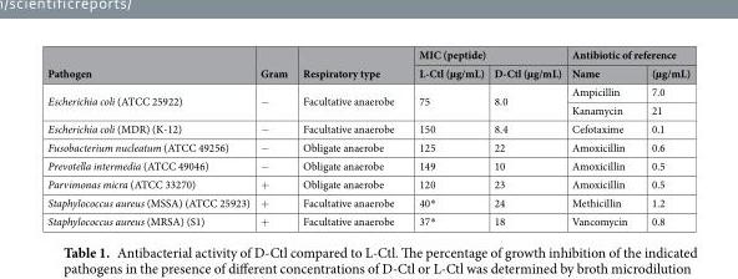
<table><thead><tr><td rowspan="2">Pathogen</td><td rowspan="2">Gram</td><td rowspan="2">Respiratory type</td><td colspan="2">MIC (peptide)</td><td colspan="2">Antibiotic of reference</td></tr><tr><td>L-Ctl (µg/mL)</td><td>D-Ctl (µg/mL)</td><td>Name</td><td>(µg/mL)</td></tr></thead><tbody><tr><td rowspan="2">Escherichia coli (ATCC 25922)</td><td rowspan="2">−</td><td rowspan="2">Facultative anaerobe</td><td rowspan="2">75</td><td rowspan="2">8.0</td><td>Ampicillin</td><td>7.0</td></tr><tr><td>Kanamycin</td><td>21</td></tr><tr><td>Escherichia coli (MDR) (K-12)</td><td>−</td><td>Facultative anaerobe</td><td>150</td><td>8.4</td><td>Cefotaxime</td><td>0.1</td></tr><tr><td>Fusobacterium nucleatum (ATCC 49256)</td><td>−</td><td>Obligate anaerobe</td><td>125</td><td>22</td><td>Amoxicillin</td><td>0.6</td></tr><tr><td>Prevotella intermedia (ATCC 49046)</td><td>−</td><td>Obligate anaerobe</td><td>149</td><td>10</td><td>Amoxicillin</td><td>0.5</td></tr><tr><td>Parvimonas micra (ATCC 33270)</td><td>+</td><td>Obligate anaerobe</td><td>120</td><td>23</td><td>Amoxicillin</td><td>0.5</td></tr><tr><td>Staphylococcus aureus (MSSA) (ATCC 25923)</td><td>+</td><td>Facultative anaerobe</td><td>40*</td><td>24</td><td>Methicillin</td><td>1.2</td></tr><tr><td>Staphylococcus aureus (MRSA) (S1)</td><td>+</td><td>Facultative anaerobe</td><td>37*</td><td>18</td><td>Vancomycin</td><td>0.8</td></tr></tbody></table>